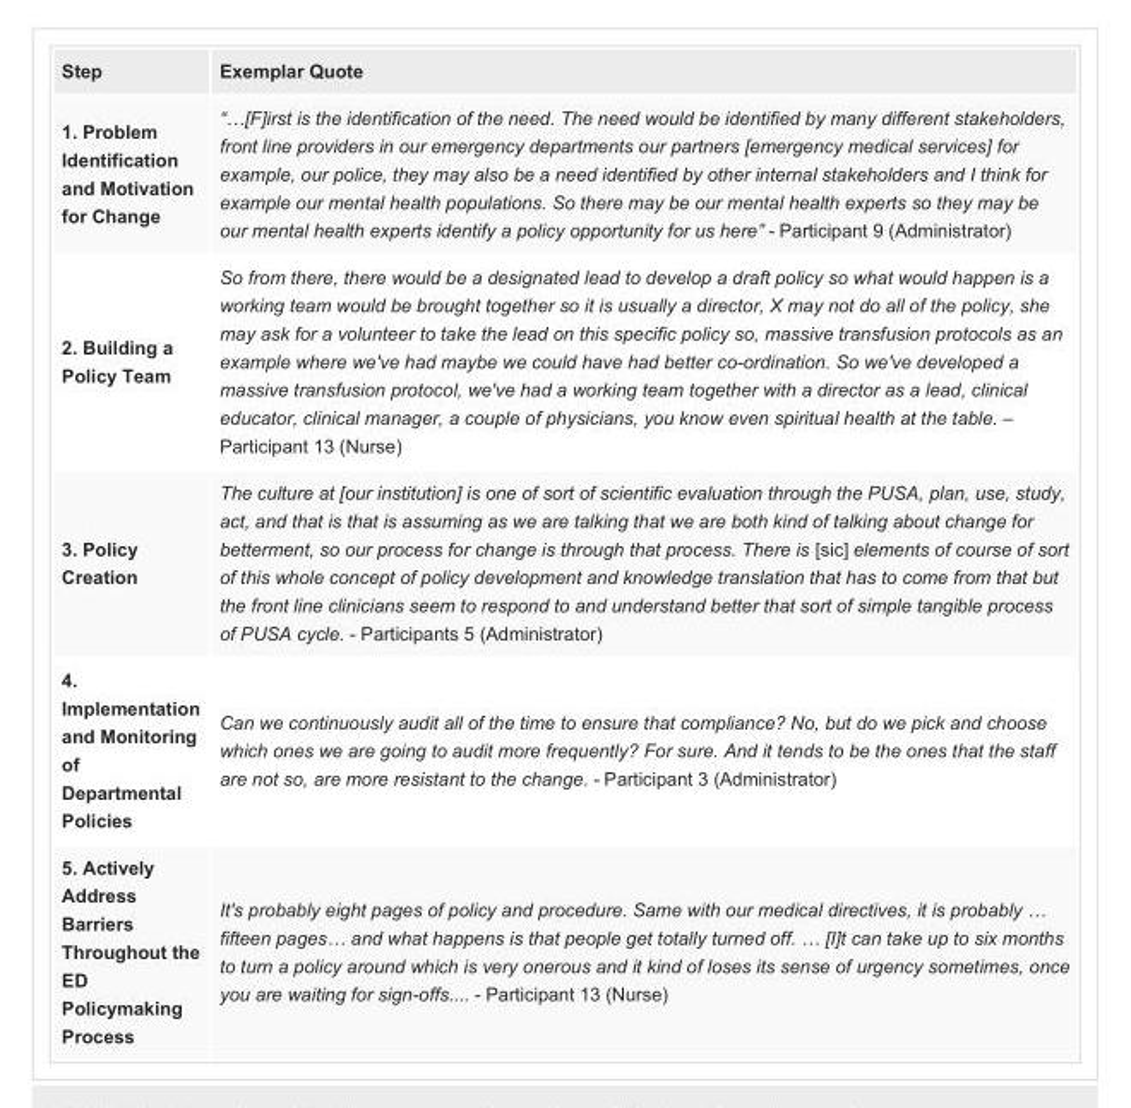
<table><tbody><tr><td>Step</td><td>Exemplar Quote</td></tr><tr><td>1. Problem Identification and Motivation for Change</td><td>“…[F]irst is the identification of the need. The need would be identified by many different stakeholders, front line providers in our emergency departments our partners [emergency medical services] for example, our police, they may also be a need identified by other internal stakeholders and I think for example our mental health populations. So there may be our mental health experts so they may be our mental health experts identify a policy opportunity for us here” - Participant 9 (Administrator)</td></tr><tr><td>2. Building a Policy Team</td><td>So from there, there would be a designated lead to develop a draft policy so what would happen is a working team would be brought together so it is usually a director, X may not do all of the policy, she may ask for a volunteer to take the lead on this specific policy so, massive transfusion protocols as an example where we&#x27;ve had maybe we could have had better co-ordination. So we&#x27;ve developed a massive transfusion protocol, we&#x27;ve had a working team together with a director as a lead, clinical educator, clinical manager, a couple of physicians, you know even spiritual health at the table. – Participant 13 (Nurse)</td></tr><tr><td>3. Policy Creation</td><td>The culture at [our institution] is one of sort of scientific evaluation through the PUSA, plan, use, study, act, and that is that is assuming as we are talking that we are both kind of talking about change for betterment, so our process for change is through that process. There is [sic] elements of course of sort of this whole concept of policy development and knowledge translation that has to come from that but the front line clinicians seem to respond to and understand better that sort of simple tangible process of PUSA cycle. - Participants 5 (Administrator)</td></tr><tr><td>4. Implementation and Monitoring of Departmental Policies</td><td>Can we continuously audit all of the time to ensure that compliance? No, but do we pick and choose which ones we are going to audit more frequently? For sure. And it tends to be the ones that the staff are not so, are more resistant to the change. - Participant 3 (Administrator)</td></tr><tr><td>5. Actively Address Barriers Throughout the ED Policymaking Process</td><td>It&#x27;s probably eight pages of policy and procedure. Same with our medical directives, it is probably … fifteen pages… and what happens is that people get totally turned off. … [I]t can take up to six months to turn a policy around which is very onerous and it kind of loses its sense of urgency sometimes, once you are waiting for sign-offs.... - Participant 13 (Nurse)</td></tr></tbody></table>